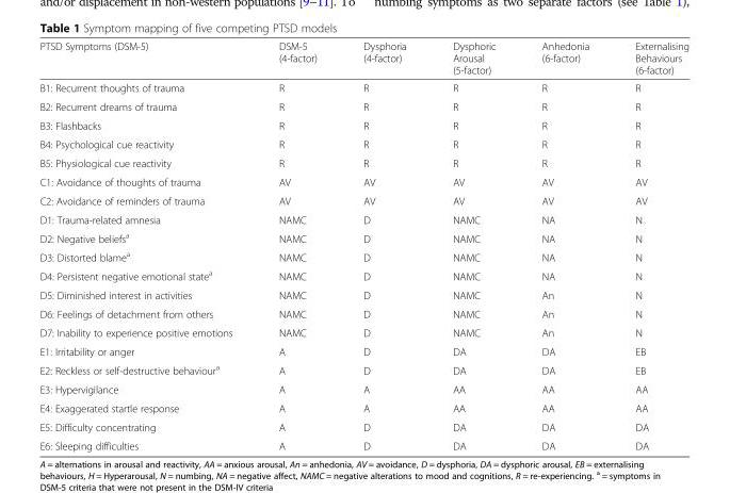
<table><thead><tr><td>PTSD Symptoms (DSM-5)</td><td>DSM-5 (4-factor)</td><td>Dysphoria (4-factor)</td><td>Dysphoric Arousal (5-factor)</td><td>Anhedonia (6-factor)</td><td>Externalising Behaviours (6-factor)</td></tr></thead><tbody><tr><td>B1: Recurrent thoughts of trauma</td><td>R</td><td>R</td><td>R</td><td>R</td><td>R</td></tr><tr><td>B2: Recurrent dreams of trauma</td><td>R</td><td>R</td><td>R</td><td>R</td><td>R</td></tr><tr><td>B3: Flashbacks</td><td>R</td><td>R</td><td>R</td><td>R</td><td>R</td></tr><tr><td>B4: Psychological cue reactivity</td><td>R</td><td>R</td><td>R</td><td>R</td><td>R</td></tr><tr><td>B5: Physiological cue reactivity</td><td>R</td><td>R</td><td>R</td><td>R</td><td>R</td></tr><tr><td>C1: Avoidance of thoughts of trauma</td><td>AV</td><td>AV</td><td>AV</td><td>AV</td><td>AV</td></tr><tr><td>C2: Avoidance of reminders of trauma</td><td>AV</td><td>AV</td><td>AV</td><td>AV</td><td>AV</td></tr><tr><td>D1: Trauma-related amnesia</td><td>NAMC</td><td>D</td><td>NAMC</td><td>NA</td><td>N</td></tr><tr><td>D2: Negative beliefs<sup>a</sup></td><td>NAMC</td><td>D</td><td>NAMC</td><td>NA</td><td>N</td></tr><tr><td>D3: Distorted blame<sup>a</sup></td><td>NAMC</td><td>D</td><td>NAMC</td><td>NA</td><td>N</td></tr><tr><td>D4: Persistent negative emotional state<sup>a</sup></td><td>NAMC</td><td>D</td><td>NAMC</td><td>NA</td><td>N</td></tr><tr><td>D5: Diminished interest in activities</td><td>NAMC</td><td>D</td><td>NAMC</td><td>An</td><td>N</td></tr><tr><td>D6: Feelings of detachment from others</td><td>NAMC</td><td>D</td><td>NAMC</td><td>An</td><td>N</td></tr><tr><td>D7: Inability to experience positive emotions</td><td>NAMC</td><td>D</td><td>NAMC</td><td>An</td><td>N</td></tr><tr><td>E1: Irritability or anger</td><td>A</td><td>D</td><td>DA</td><td>DA</td><td>EB</td></tr><tr><td>E2: Reckless or self-destructive behaviour<sup>a</sup></td><td>A</td><td>D</td><td>DA</td><td>DA</td><td>EB</td></tr><tr><td>E3: Hypervigilance</td><td>A</td><td>A</td><td>AA</td><td>AA</td><td>AA</td></tr><tr><td>E4: Exaggerated startle response</td><td>A</td><td>A</td><td>AA</td><td>AA</td><td>AA</td></tr><tr><td>E5: Difficulty concentrating</td><td>A</td><td>D</td><td>DA</td><td>DA</td><td>DA</td></tr><tr><td>E6: Sleeping difficulties</td><td>A</td><td>D</td><td>DA</td><td>DA</td><td>DA</td></tr></tbody></table>